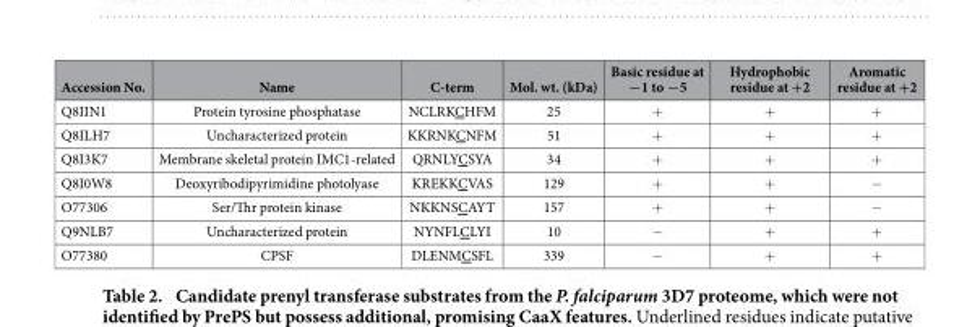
<table><thead><tr><td>Accession No.</td><td>Name</td><td>C-term</td><td>Mol. wt. (kDa)</td><td>Basic residue at −1 to −5</td><td>Hydrophobic residue at +2</td><td>Aromatic residue at +2</td></tr></thead><tbody><tr><td>Q8IIN1</td><td>Protein tyrosine phosphatase</td><td>NCLRKCHFM</td><td>25</td><td>+</td><td>+</td><td>+</td></tr><tr><td>Q8ILH7</td><td>Uncharacterized protein</td><td>KKRNKCNFM</td><td>51</td><td>+</td><td>+</td><td>+</td></tr><tr><td>Q8I3K7</td><td>Membrane skeletal protein IMC1-related</td><td>QRNLYCSYA</td><td>34</td><td>+</td><td>+</td><td>+</td></tr><tr><td>Q8I0W8</td><td>Deoxyribodipyrimidine photolyase</td><td>KREKKCVAS</td><td>129</td><td>+</td><td>+</td><td>−</td></tr><tr><td>O77306</td><td>Ser/Thr protein kinase</td><td>NKKNSCAYT</td><td>157</td><td>+</td><td>+</td><td>−</td></tr><tr><td>Q9NLB7</td><td>Uncharacterized protein</td><td>NYNFLCLYI</td><td>10</td><td>−</td><td>+</td><td>+</td></tr><tr><td>O77380</td><td>CPSF</td><td>DLENMCSFL</td><td>339</td><td>−</td><td>+</td><td>+</td></tr></tbody></table>